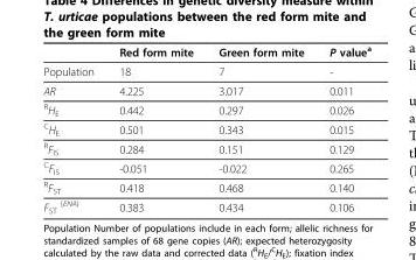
<table><thead><tr><td></td><td>Red form mite</td><td>Green form mite</td><td>P value<sup>a</sup></td></tr></thead><tbody><tr><td>Population</td><td>18</td><td>7</td><td>-</td></tr><tr><td>AR</td><td>4.225</td><td>3.017</td><td>0.011</td></tr><tr><td><sup>R</sup>H<sub>E</sub></td><td>0.442</td><td>0.297</td><td>0.026</td></tr><tr><td><sup>C</sup>H<sub>E</sub></td><td>0.501</td><td>0.343</td><td>0.015</td></tr><tr><td><sup>R</sup>F<sub>IS</sub></td><td>0.284</td><td>0.151</td><td>0.129</td></tr><tr><td><sup>C</sup>F<sub>IS</sub></td><td>-0.051</td><td>-0.022</td><td>0.265</td></tr><tr><td><sup>R</sup>F<sub>ST</sub></td><td>0.418</td><td>0.468</td><td>0.140</td></tr><tr><td>F<sub>ST</sub> <sup>{ENA}</sup></td><td>0.383</td><td>0.434</td><td>0.106</td></tr></tbody></table>